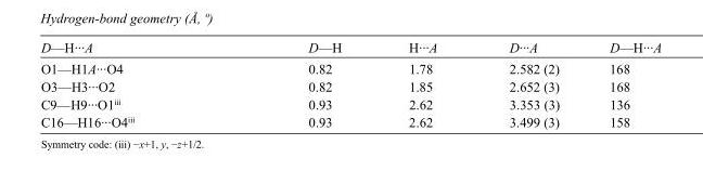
<table><tbody><tr><td>D—H···A</td><td>D—H</td><td>H···A</td><td>D···A</td><td>D—H···A</td></tr><tr><td>O1—H1A···O4</td><td>0.82</td><td>1.78</td><td>2.582 (2)</td><td>168</td></tr><tr><td>O3—H3···O2</td><td>0.82</td><td>1.85</td><td>2.652 (3)</td><td>168</td></tr><tr><td>C9—H9···O1<sup>iii</sup></td><td>0.93</td><td>2.62</td><td>3.353 (3)</td><td>136</td></tr><tr><td>C16—H16···O4<sup>iii</sup></td><td>0.93</td><td>2.62</td><td>3.499 (3)</td><td>158</td></tr></tbody></table>